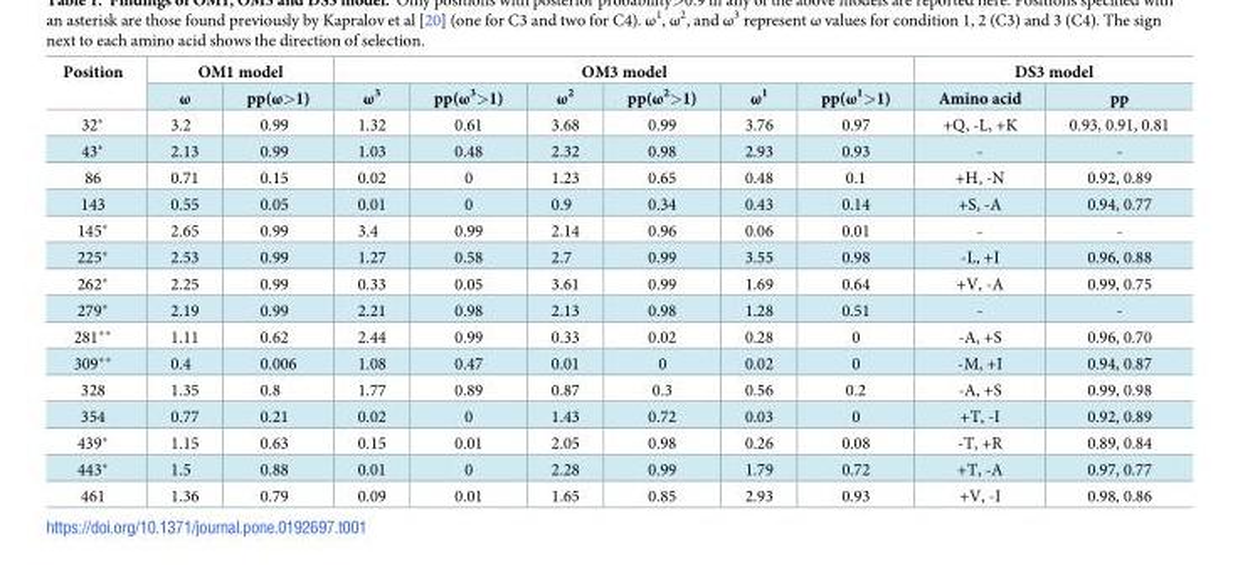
<table><thead><tr><td rowspan="2">Position</td><td colspan="2">OM1 model</td><td colspan="6">OM3 model</td><td colspan="2">DS3 model</td></tr><tr><td>ω</td><td>pp(ω&gt;1)</td><td>ω<sup>3</sup></td><td>pp(ω<sup>3</sup>&gt;1)</td><td>ω<sup>2</sup></td><td>pp(ω<sup>2</sup>&gt;1)</td><td>ω<sup>1</sup></td><td>pp(ω<sup>1</sup>&gt;1)</td><td>Amino acid</td><td>pp</td></tr></thead><tbody><tr><td>32*</td><td>3.2</td><td>0.99</td><td>1.32</td><td>0.61</td><td>3.68</td><td>0.99</td><td>3.76</td><td>0.97</td><td>+Q, -L, +K</td><td>0.93, 0.91, 0.81</td></tr><tr><td>43*</td><td>2.13</td><td>0.99</td><td>1.03</td><td>0.48</td><td>2.32</td><td>0.98</td><td>2.93</td><td>0.93</td><td>-</td><td>-</td></tr><tr><td>86</td><td>0.71</td><td>0.15</td><td>0.02</td><td>0</td><td>1.23</td><td>0.65</td><td>0.48</td><td>0.1</td><td>+H, -N</td><td>0.92, 0.89</td></tr><tr><td>143</td><td>0.55</td><td>0.05</td><td>0.01</td><td>0</td><td>0.9</td><td>0.34</td><td>0.43</td><td>0.14</td><td>+S, -A</td><td>0.94, 0.77</td></tr><tr><td>145*</td><td>2.65</td><td>0.99</td><td>3.4</td><td>0.99</td><td>2.14</td><td>0.96</td><td>0.06</td><td>0.01</td><td>-</td><td>-</td></tr><tr><td>225*</td><td>2.53</td><td>0.99</td><td>1.27</td><td>0.58</td><td>2.7</td><td>0.99</td><td>3.55</td><td>0.98</td><td>-L, +I</td><td>0.96, 0.88</td></tr><tr><td>262*</td><td>2.25</td><td>0.99</td><td>0.33</td><td>0.05</td><td>3.61</td><td>0.99</td><td>1.69</td><td>0.64</td><td>+V, -A</td><td>0.99, 0.75</td></tr><tr><td>279*</td><td>2.19</td><td>0.99</td><td>2.21</td><td>0.98</td><td>2.13</td><td>0.98</td><td>1.28</td><td>0.51</td><td>-</td><td>-</td></tr><tr><td>281**</td><td>1.11</td><td>0.62</td><td>2.44</td><td>0.99</td><td>0.33</td><td>0.02</td><td>0.28</td><td>0</td><td>-A, +S</td><td>0.96, 0.70</td></tr><tr><td>309**</td><td>0.4</td><td>0.006</td><td>1.08</td><td>0.47</td><td>0.01</td><td>0</td><td>0.02</td><td>0</td><td>-M, +I</td><td>0.94, 0.87</td></tr><tr><td>328</td><td>1.35</td><td>0.8</td><td>1.77</td><td>0.89</td><td>0.87</td><td>0.3</td><td>0.56</td><td>0.2</td><td>-A, +S</td><td>0.99, 0.98</td></tr><tr><td>354</td><td>0.77</td><td>0.21</td><td>0.02</td><td>0</td><td>1.43</td><td>0.72</td><td>0.03</td><td>0</td><td>+T, -I</td><td>0.92, 0.89</td></tr><tr><td>439*</td><td>1.15</td><td>0.63</td><td>0.15</td><td>0.01</td><td>2.05</td><td>0.98</td><td>0.26</td><td>0.08</td><td>-T, +R</td><td>0.89, 0.84</td></tr><tr><td>443*</td><td>1.5</td><td>0.88</td><td>0.01</td><td>0</td><td>2.28</td><td>0.99</td><td>1.79</td><td>0.72</td><td>+T, -A</td><td>0.97, 0.77</td></tr><tr><td>461</td><td>1.36</td><td>0.79</td><td>0.09</td><td>0.01</td><td>1.65</td><td>0.85</td><td>2.93</td><td>0.93</td><td>+V, -I</td><td>0.98, 0.86</td></tr></tbody></table>